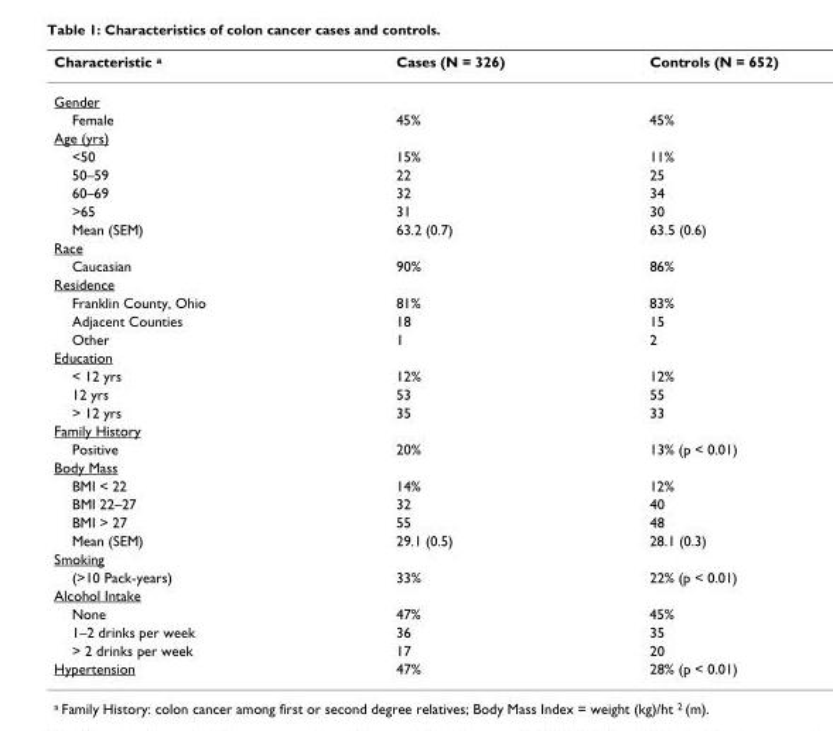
<table><thead><tr><td>Characteristic <sup>a</sup></td><td>Cases (N = 326)</td><td>Controls (N = 652)</td></tr></thead><tbody><tr><td colspan="3">Gender</td></tr><tr><td>Female</td><td>45%</td><td>45%</td></tr><tr><td colspan="3">Age (yrs)</td></tr><tr><td>&lt;50</td><td>15%</td><td>11%</td></tr><tr><td>50–59</td><td>22</td><td>25</td></tr><tr><td>60–69</td><td>32</td><td>34</td></tr><tr><td>&gt;65</td><td>31</td><td>30</td></tr><tr><td>Mean (SEM)</td><td>63.2 (0.7)</td><td>63.5 (0.6)</td></tr><tr><td colspan="3">Race</td></tr><tr><td>Caucasian</td><td>90%</td><td>86%</td></tr><tr><td colspan="3">Residence</td></tr><tr><td>Franklin County, Ohio</td><td>81%</td><td>83%</td></tr><tr><td>Adjacent Counties</td><td>18</td><td>15</td></tr><tr><td>Other</td><td>1</td><td>2</td></tr><tr><td colspan="3">Education</td></tr><tr><td>&lt; 12 yrs</td><td>12%</td><td>12%</td></tr><tr><td>12 yrs</td><td>53</td><td>55</td></tr><tr><td>&gt; 12 yrs</td><td>35</td><td>33</td></tr><tr><td colspan="3">Family History</td></tr><tr><td>Positive</td><td>20%</td><td>13% (p &lt; 0.01)</td></tr><tr><td colspan="3">Body Mass</td></tr><tr><td>BMI &lt; 22</td><td>14%</td><td>12%</td></tr><tr><td>BMI 22–27</td><td>32</td><td>40</td></tr><tr><td>BMI &gt; 27</td><td>55</td><td>48</td></tr><tr><td>Mean (SEM)</td><td>29.1 (0.5)</td><td>28.1 (0.3)</td></tr><tr><td colspan="3">Smoking</td></tr><tr><td>(&gt;10 Pack-years)</td><td>33%</td><td>22% (p &lt; 0.01)</td></tr><tr><td colspan="3">Alcohol Intake</td></tr><tr><td>None</td><td>47%</td><td>45%</td></tr><tr><td>1–2 drinks per week</td><td>36</td><td>35</td></tr><tr><td>&gt; 2 drinks per week</td><td>17</td><td>20</td></tr><tr><td>Hypertension</td><td>47%</td><td>28% (p &lt; 0.01)</td></tr></tbody></table>